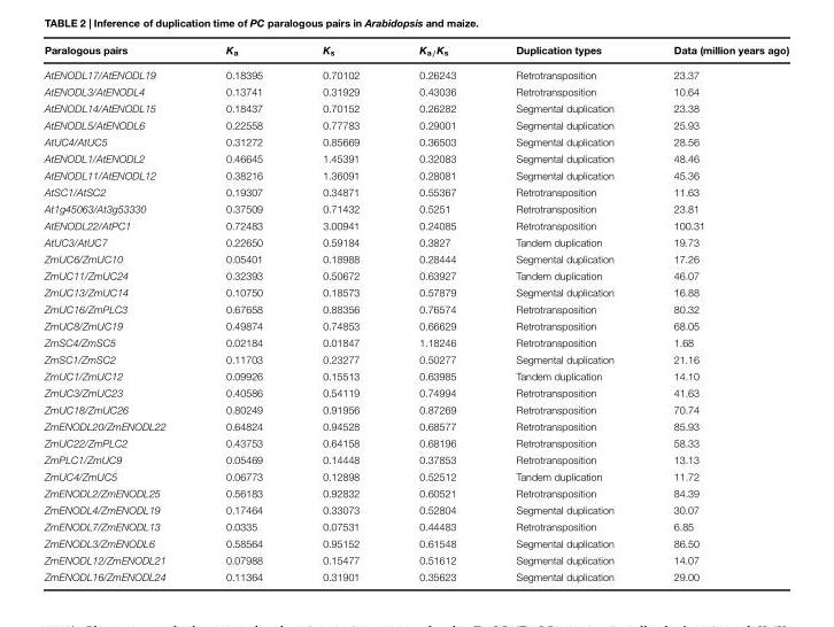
<table><thead><tr><td>Paralogous pairs</td><td>K<sub>a</sub></td><td>K<sub>s</sub></td><td>K<sub>a/</sub>K<sub>s</sub></td><td>Duplication types</td><td>Data (million years ago)</td></tr></thead><tbody><tr><td>AtENODL17/AtENODL19</td><td>0.18395</td><td>0.70102</td><td>0.26243</td><td>Retrotransposition</td><td>23.37</td></tr><tr><td>AtENODL3/AtENODL4</td><td>0.13741</td><td>0.31929</td><td>0.43036</td><td>Retrotransposition</td><td>10.64</td></tr><tr><td>AtENODL14/AtENODL15</td><td>0.18437</td><td>0.70152</td><td>0.26282</td><td>Segmental duplication</td><td>23.38</td></tr><tr><td>AtENODL5/AtENODL6</td><td>0.22558</td><td>0.77783</td><td>0.29001</td><td>Segmental duplication</td><td>25.93</td></tr><tr><td>AtUC4/AtUC5</td><td>0.31272</td><td>0.85669</td><td>0.36503</td><td>Segmental duplication</td><td>28.56</td></tr><tr><td>AtENODL1/AtENODL2</td><td>0.46645</td><td>1.45391</td><td>0.32083</td><td>Segmental duplication</td><td>48.46</td></tr><tr><td>AtENODL11/AtENODL12</td><td>0.38216</td><td>1.36091</td><td>0.28081</td><td>Segmental duplication</td><td>45.36</td></tr><tr><td>AtSC1/AtSC2</td><td>0.19307</td><td>0.34871</td><td>0.55367</td><td>Retrotransposition</td><td>11.63</td></tr><tr><td>At1g45063/At3g53330</td><td>0.37509</td><td>0.71432</td><td>0.5251</td><td>Retrotransposition</td><td>23.81</td></tr><tr><td>AtENODL22/AtPC1</td><td>0.72483</td><td>3.00941</td><td>0.24085</td><td>Retrotransposition</td><td>100.31</td></tr><tr><td>AtUC3/AtUC7</td><td>0.22650</td><td>0.59184</td><td>0.3827</td><td>Tandem duplication</td><td>19.73</td></tr><tr><td>ZmUC6/ZmUC10</td><td>0.05401</td><td>0.18988</td><td>0.28444</td><td>Segmental duplication</td><td>17.26</td></tr><tr><td>ZmUC11/ZmUC24</td><td>0.32393</td><td>0.50672</td><td>0.63927</td><td>Tandem duplication</td><td>46.07</td></tr><tr><td>ZmUC13/ZmUC14</td><td>0.10750</td><td>0.18573</td><td>0.57879</td><td>Segmental duplication</td><td>16.88</td></tr><tr><td>ZmUC16/ZmPLC3</td><td>0.67658</td><td>0.88356</td><td>0.76574</td><td>Retrotransposition</td><td>80.32</td></tr><tr><td>ZmUC8/ZmUC19</td><td>0.49874</td><td>0.74853</td><td>0.66629</td><td>Retrotransposition</td><td>68.05</td></tr><tr><td>ZmSC4/ZmSC5</td><td>0.02184</td><td>0.01847</td><td>1.18246</td><td>Retrotransposition</td><td>1.68</td></tr><tr><td>ZmSC1/ZmSC2</td><td>0.11703</td><td>0.23277</td><td>0.50277</td><td>Segmental duplication</td><td>21.16</td></tr><tr><td>ZmUC1/ZmUC12</td><td>0.09926</td><td>0.15513</td><td>0.63985</td><td>Tandem duplication</td><td>14.10</td></tr><tr><td>ZmUC3/ZmUC23</td><td>0.40586</td><td>0.54119</td><td>0.74994</td><td>Retrotransposition</td><td>41.63</td></tr><tr><td>ZmUC18/ZmUC26</td><td>0.80249</td><td>0.91956</td><td>0.87269</td><td>Retrotransposition</td><td>70.74</td></tr><tr><td>ZmENODL20/ZmENODL22</td><td>0.64824</td><td>0.94528</td><td>0.68577</td><td>Retrotransposition</td><td>85.93</td></tr><tr><td>ZmUC22/ZmPLC2</td><td>0.43753</td><td>0.64158</td><td>0.68196</td><td>Retrotransposition</td><td>58.33</td></tr><tr><td>ZmPLC1/ZmUC9</td><td>0.05469</td><td>0.14448</td><td>0.37853</td><td>Retrotransposition</td><td>13.13</td></tr><tr><td>ZmUC4/ZmUC5</td><td>0.06773</td><td>0.12898</td><td>0.52512</td><td>Tandem duplication</td><td>11.72</td></tr><tr><td>ZmENODL2/ZmENODL25</td><td>0.56183</td><td>0.92832</td><td>0.60521</td><td>Retrotransposition</td><td>84.39</td></tr><tr><td>ZmENODL4/ZmENODL19</td><td>0.17464</td><td>0.33073</td><td>0.52804</td><td>Segmental duplication</td><td>30.07</td></tr><tr><td>ZmENODL7/ZmENODL13</td><td>0.0335</td><td>0.07531</td><td>0.44483</td><td>Retrotransposition</td><td>6.85</td></tr><tr><td>ZmENODL3/ZmENODL6</td><td>0.58564</td><td>0.95152</td><td>0.61548</td><td>Segmental duplication</td><td>86.50</td></tr><tr><td>ZmENODL12/ZmENODL21</td><td>0.07988</td><td>0.15477</td><td>0.51612</td><td>Segmental duplication</td><td>14.07</td></tr><tr><td>ZmENODL16/ZmENODL24</td><td>0.11364</td><td>0.31901</td><td>0.35623</td><td>Segmental duplication</td><td>29.00</td></tr></tbody></table>